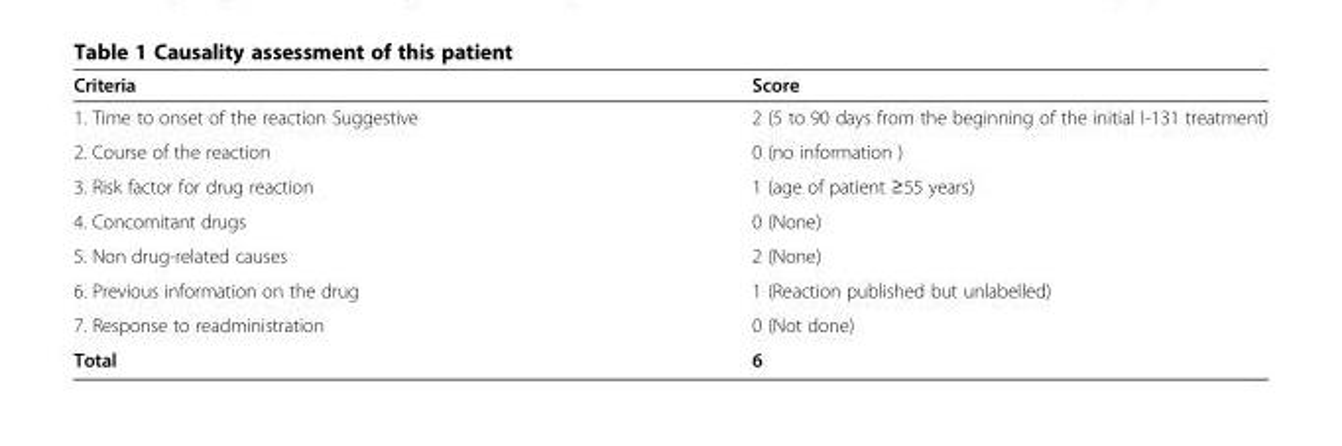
<table><thead><tr><td>Criteria</td><td>Score</td></tr></thead><tbody><tr><td>1. Time to onset of the reaction Suggestive</td><td>2 (5 to 90 days from the beginning of the initial I-131 treatment)</td></tr><tr><td>2. Course of the reaction</td><td>0 (no information )</td></tr><tr><td>3. Risk factor for drug reaction</td><td>1 (age of patient ≥55 years)</td></tr><tr><td>4. Concomitant drugs</td><td>0 (None)</td></tr><tr><td>5. Non drug-related causes</td><td>2 (None)</td></tr><tr><td>6. Previous information on the drug</td><td>1 (Reaction published but unlabelled)</td></tr><tr><td>7. Response to readministration</td><td>0 (Not done)</td></tr><tr><td>Total</td><td>6</td></tr></tbody></table>